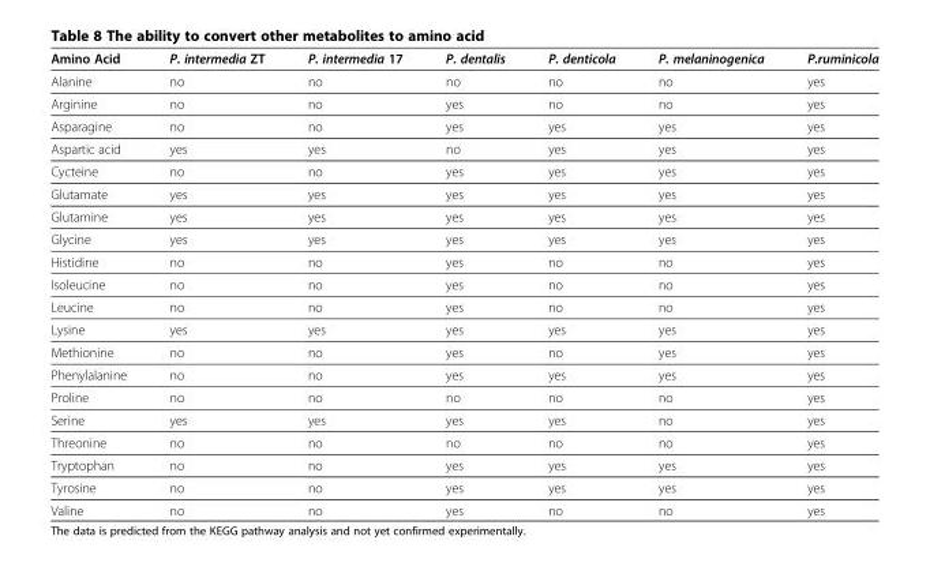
<table><thead><tr><td>Amino Acid</td><td>P. intermedia ZT</td><td>P. intermedia 17</td><td>P. dentalis</td><td>P. denticola</td><td>P. melaninogenica</td><td>P.ruminicola</td></tr></thead><tbody><tr><td>Alanine</td><td>no</td><td>no</td><td>no</td><td>no</td><td>no</td><td>yes</td></tr><tr><td>Arginine</td><td>no</td><td>no</td><td>yes</td><td>no</td><td>no</td><td>yes</td></tr><tr><td>Asparagine</td><td>no</td><td>no</td><td>yes</td><td>yes</td><td>yes</td><td>yes</td></tr><tr><td>Aspartic acid</td><td>yes</td><td>yes</td><td>no</td><td>yes</td><td>yes</td><td>yes</td></tr><tr><td>Cycteine</td><td>no</td><td>no</td><td>yes</td><td>yes</td><td>yes</td><td>yes</td></tr><tr><td>Glutamate</td><td>yes</td><td>yes</td><td>yes</td><td>yes</td><td>yes</td><td>yes</td></tr><tr><td>Glutamine</td><td>yes</td><td>yes</td><td>yes</td><td>yes</td><td>yes</td><td>yes</td></tr><tr><td>Glycine</td><td>yes</td><td>yes</td><td>yes</td><td>yes</td><td>yes</td><td>yes</td></tr><tr><td>Histidine</td><td>no</td><td>no</td><td>yes</td><td>no</td><td>no</td><td>yes</td></tr><tr><td>Isoleucine</td><td>no</td><td>no</td><td>yes</td><td>no</td><td>no</td><td>yes</td></tr><tr><td>Leucine</td><td>no</td><td>no</td><td>yes</td><td>no</td><td>no</td><td>yes</td></tr><tr><td>Lysine</td><td>yes</td><td>yes</td><td>yes</td><td>yes</td><td>yes</td><td>yes</td></tr><tr><td>Methionine</td><td>no</td><td>no</td><td>yes</td><td>no</td><td>yes</td><td>yes</td></tr><tr><td>Phenylalanine</td><td>no</td><td>no</td><td>yes</td><td>yes</td><td>yes</td><td>yes</td></tr><tr><td>Proline</td><td>no</td><td>no</td><td>no</td><td>no</td><td>no</td><td>yes</td></tr><tr><td>Serine</td><td>yes</td><td>yes</td><td>yes</td><td>yes</td><td>no</td><td>yes</td></tr><tr><td>Threonine</td><td>no</td><td>no</td><td>no</td><td>no</td><td>no</td><td>yes</td></tr><tr><td>Tryptophan</td><td>no</td><td>no</td><td>yes</td><td>yes</td><td>yes</td><td>yes</td></tr><tr><td>Tyrosine</td><td>no</td><td>no</td><td>yes</td><td>yes</td><td>yes</td><td>yes</td></tr><tr><td>Valine</td><td>no</td><td>no</td><td>yes</td><td>no</td><td>no</td><td>yes</td></tr></tbody></table>